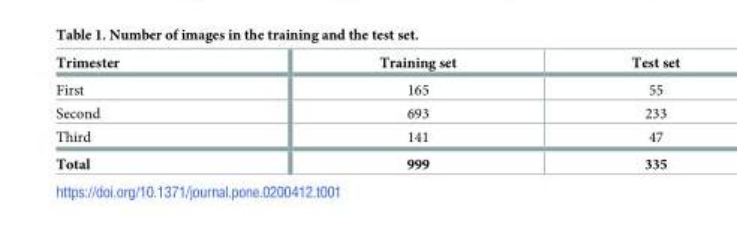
<table><thead><tr><td>Trimester</td><td>Training set</td><td>Test set</td></tr></thead><tbody><tr><td>First</td><td>165</td><td>55</td></tr><tr><td>Second</td><td>693</td><td>233</td></tr><tr><td>Third</td><td>141</td><td>47</td></tr><tr><td>Total</td><td>999</td><td>335</td></tr></tbody></table>